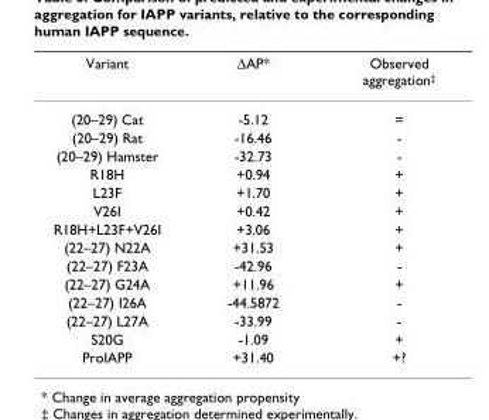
<table><thead><tr><td>Variant</td><td>∆AP*</td><td>Observed aggregation‡</td></tr></thead><tbody><tr><td>(20–29) Cat</td><td>-5.12</td><td>=</td></tr><tr><td>(20–29) Rat</td><td>-16.46</td><td>-</td></tr><tr><td>(20–29) Hamster</td><td>-32.73</td><td>-</td></tr><tr><td>R18H</td><td>+0.94</td><td>+</td></tr><tr><td>L23F</td><td>+1.70</td><td>+</td></tr><tr><td>V26I</td><td>+0.42</td><td>+</td></tr><tr><td>R18H+L23F+V26I</td><td>+3.06</td><td>+</td></tr><tr><td>(22–27) N22A</td><td>+31.53</td><td>+</td></tr><tr><td>(22–27) F23A</td><td>-42.96</td><td>-</td></tr><tr><td>(22–27) G24A</td><td>+11.96</td><td>+</td></tr><tr><td>(22–27) I26A</td><td>-44.5872</td><td>-</td></tr><tr><td>(22–27) L27A</td><td>-33.99</td><td>-</td></tr><tr><td>S20G</td><td>-1.09</td><td>+</td></tr><tr><td>ProIAPP</td><td>+31.40</td><td>+?</td></tr></tbody></table>